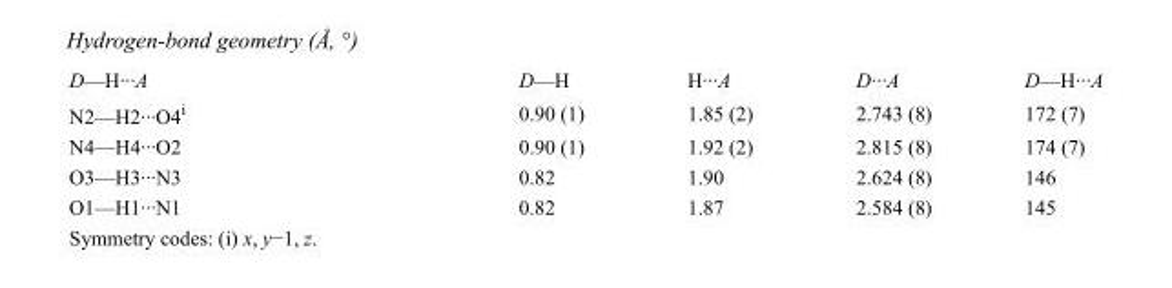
<table><tbody><tr><td>D—H···A</td><td>D—H</td><td>H···A</td><td>D···A</td><td>D—H···A</td></tr><tr><td>N2—H2···O4<sup>i</sup></td><td>0.90 (1)</td><td>1.85 (2)</td><td>2.743 (8)</td><td>172 (7)</td></tr><tr><td>N4—H4···O2</td><td>0.90 (1)</td><td>1.92 (2)</td><td>2.815 (8)</td><td>174 (7)</td></tr><tr><td>O3—H3···N3</td><td>0.82</td><td>1.90</td><td>2.624 (8)</td><td>146</td></tr><tr><td>O1—H1···N1</td><td>0.82</td><td>1.87</td><td>2.584 (8)</td><td>145</td></tr></tbody></table>